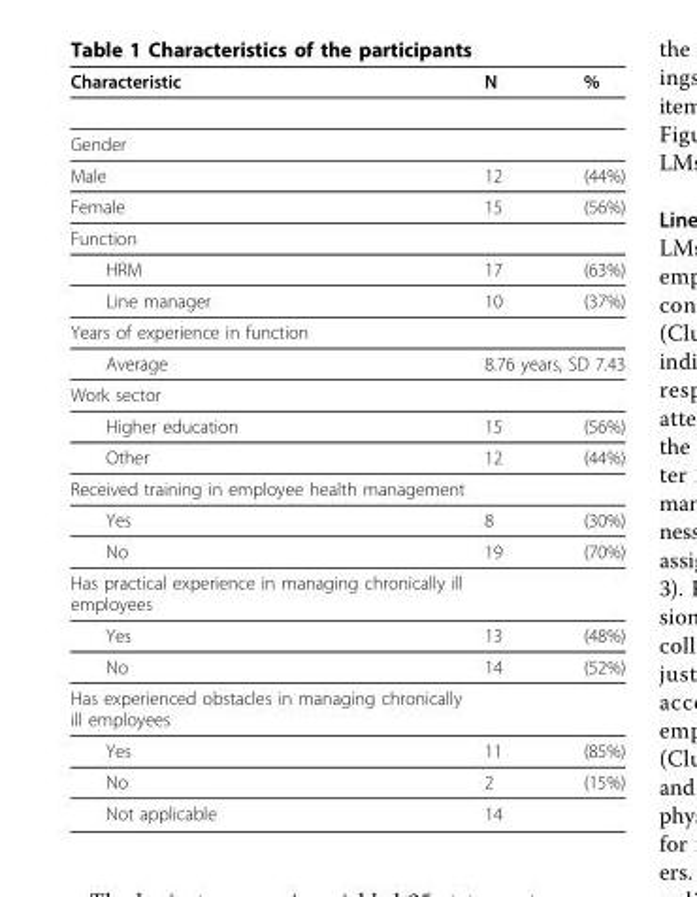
<table><thead><tr><td>Characteristic</td><td>N</td><td>%</td></tr></thead><tbody><tr><td colspan="3">Gender</td></tr><tr><td>Male</td><td>12</td><td>(44%)</td></tr><tr><td>Female</td><td>15</td><td>(56%)</td></tr><tr><td colspan="3">Function</td></tr><tr><td>HRM</td><td>17</td><td>(63%)</td></tr><tr><td>Line manager</td><td>10</td><td>(37%)</td></tr><tr><td colspan="3">Years of experience in function</td></tr><tr><td>Average</td><td colspan="2">8.76 years, SD 7.43</td></tr><tr><td colspan="3">Work sector</td></tr><tr><td>Higher education</td><td>15</td><td>(56%)</td></tr><tr><td>Other</td><td>12</td><td>(44%)</td></tr><tr><td colspan="3">Received training in employee health management</td></tr><tr><td>Yes</td><td>8</td><td>(30%)</td></tr><tr><td>No</td><td>19</td><td>(70%)</td></tr><tr><td colspan="3">Has practical experience in managing chronically ill employees</td></tr><tr><td>Yes</td><td>13</td><td>(48%)</td></tr><tr><td>No</td><td>14</td><td>(52%)</td></tr><tr><td colspan="3">Has experienced obstacles in managing chronically ill employees</td></tr><tr><td>Yes</td><td>11</td><td>(85%)</td></tr><tr><td>No</td><td>2</td><td>(15%)</td></tr><tr><td>Not applicable</td><td>14</td><td></td></tr></tbody></table>